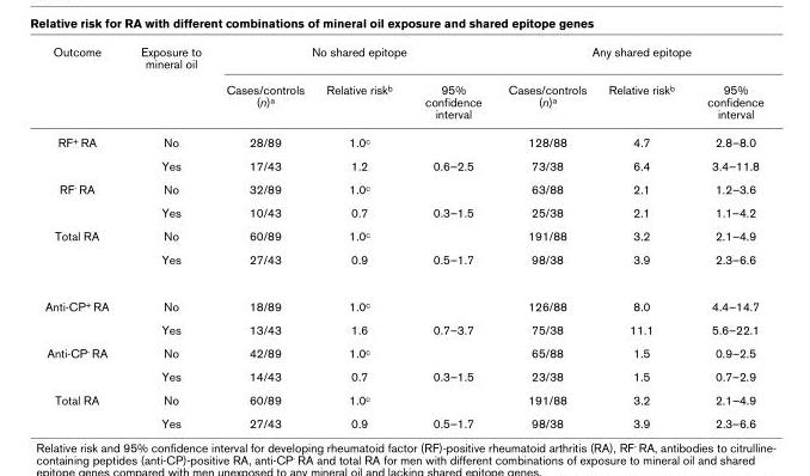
<table><thead><tr><td rowspan="2">Outcome</td><td rowspan="2">Exposure to mineral oil</td><td colspan="3">No shared epitope</td><td colspan="3">Any shared epitope</td></tr><tr><td>Cases/controls (n)a</td><td>Relative riskb</td><td>95% confidence interval</td><td>Cases/controls (n)a</td><td>Relative riskb</td><td>95% confidence interval</td></tr></thead><tbody><tr><td rowspan="2">RF+ RA</td><td>No</td><td>28/89</td><td>1.0c</td><td></td><td>128/88</td><td>4.7</td><td>2.8–8.0</td></tr><tr><td>Yes</td><td>17/43</td><td>1.2</td><td>0.6–2.5</td><td>73/38</td><td>6.4</td><td>3.4–11.8</td></tr><tr><td rowspan="2">RF- RA</td><td>No</td><td>32/89</td><td>1.0c</td><td></td><td>63/88</td><td>2.1</td><td>1.2–3.6</td></tr><tr><td>Yes</td><td>10/43</td><td>0.7</td><td>0.3–1.5</td><td>25/38</td><td>2.1</td><td>1.1–4.2</td></tr><tr><td rowspan="2">Total RA</td><td>No</td><td>60/89</td><td>1.0c</td><td></td><td>191/88</td><td>3.2</td><td>2.1–4.9</td></tr><tr><td>Yes</td><td>27/43</td><td>0.9</td><td>0.5–1.7</td><td>98/38</td><td>3.9</td><td>2.3–6.6</td></tr><tr><td rowspan="2">Anti-CP+ RA</td><td>No</td><td>18/89</td><td>1.0c</td><td></td><td>126/88</td><td>8.0</td><td>4.4–14.7</td></tr><tr><td>Yes</td><td>13/43</td><td>1.6</td><td>0.7–3.7</td><td>75/38</td><td>11.1</td><td>5.6–22.1</td></tr><tr><td rowspan="2">Anti-CP- RA</td><td>No</td><td>42/89</td><td>1.0c</td><td></td><td>65/88</td><td>1.5</td><td>0.9–2.5</td></tr><tr><td>Yes</td><td>14/43</td><td>0.7</td><td>0.3–1.5</td><td>23/38</td><td>1.5</td><td>0.7–2.9</td></tr><tr><td rowspan="2">Total RA</td><td>No</td><td>60/89</td><td>1.0c</td><td></td><td>191/88</td><td>3.2</td><td>2.1–4.9</td></tr><tr><td>Yes</td><td>27/43</td><td>0.9</td><td>0.5–1.7</td><td>98/38</td><td>3.9</td><td>2.3–6.6</td></tr></tbody></table>